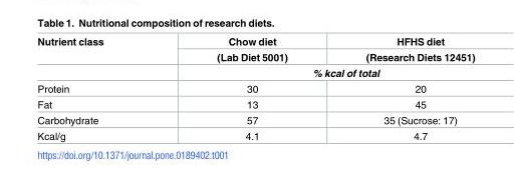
<table><thead><tr><td rowspan="2">Nutrient class</td><td rowspan="2">Chow diet (Lab Diet 5001)</td><td rowspan="2">HFHS diet (Research Diets 12451)</td></tr><tr></tr></thead><tbody><tr><td></td><td colspan="2">% kcal of total</td></tr><tr><td>Protein</td><td>30</td><td>20</td></tr><tr><td>Fat</td><td>13</td><td>45</td></tr><tr><td>Carbohydrate</td><td>57</td><td>35 (Sucrose: 17)</td></tr><tr><td>Kcal/g</td><td>4.1</td><td>4.7</td></tr></tbody></table>